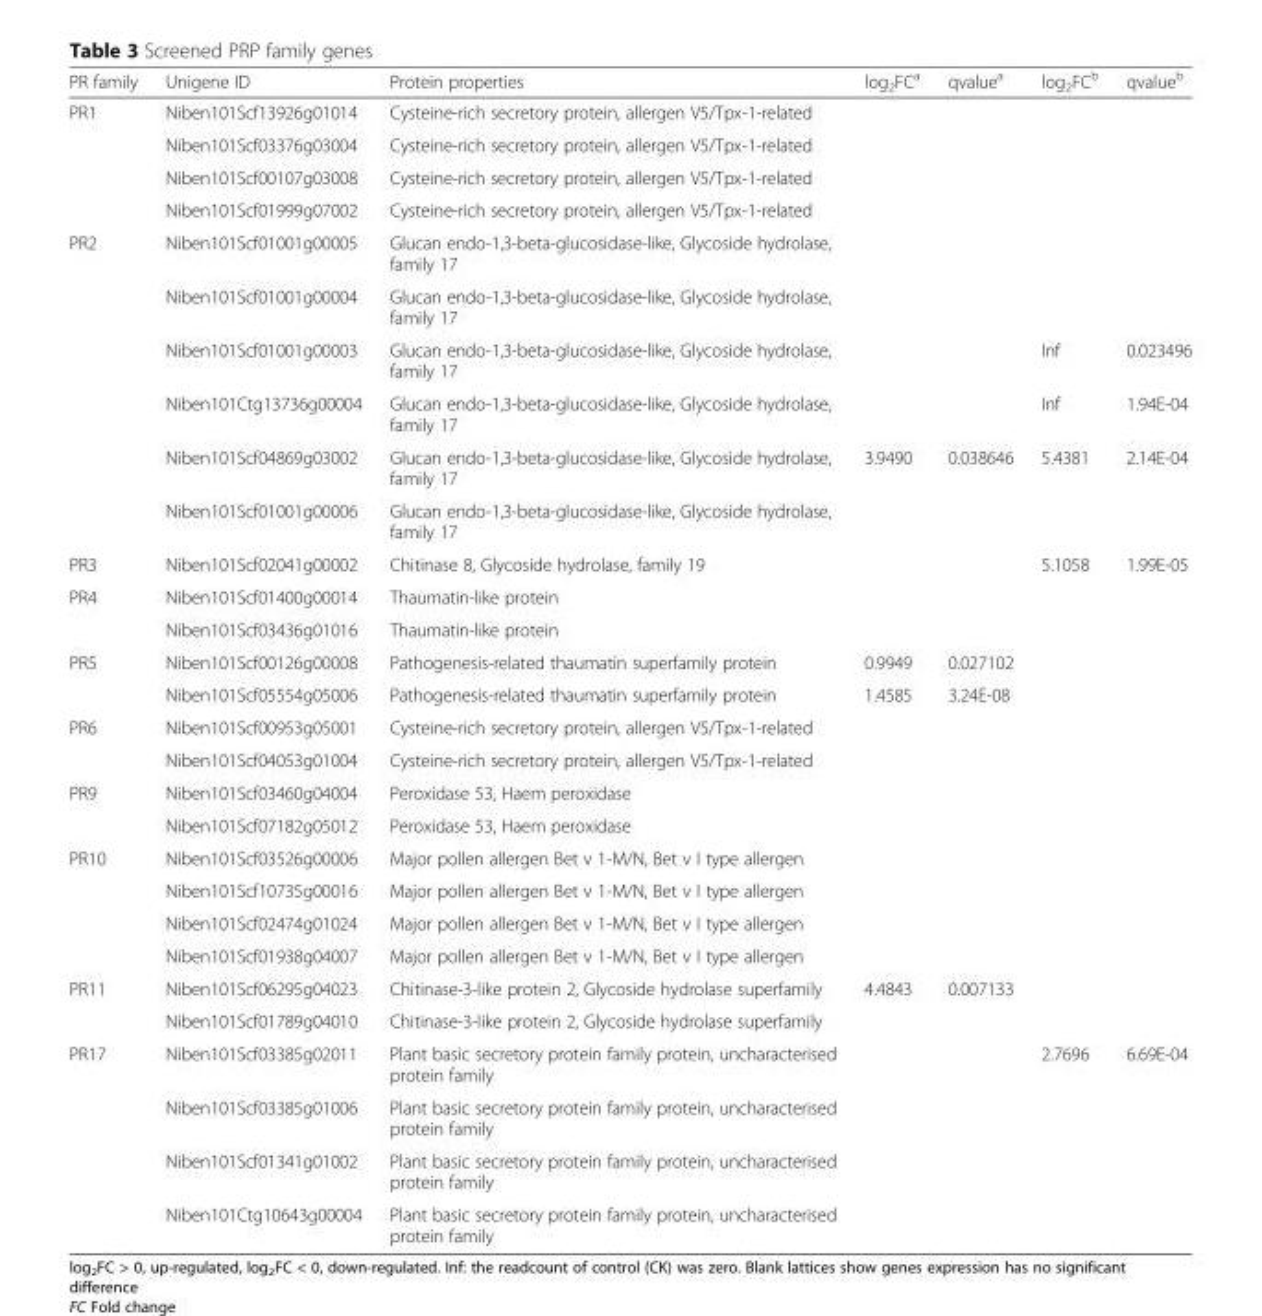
<table><thead><tr><td>PR family</td><td>Unigene ID</td><td>Protein properties</td><td>log<sub>2</sub>FC<sup>a</sup></td><td>qvalue<sup>a</sup></td><td>log<sub>2</sub>FC<sup>b</sup></td><td>qvalue<sup>b</sup></td></tr></thead><tbody><tr><td rowspan="4">PR1</td><td>Niben101Scf13926g01014</td><td>Cysteine-rich secretory protein, allergen V5/Tpx-1-related</td><td></td><td></td><td></td><td></td></tr><tr><td>Niben101Scf03376g03004</td><td>Cysteine-rich secretory protein, allergen V5/Tpx-1-related</td><td></td><td></td><td></td><td></td></tr><tr><td>Niben101Scf00107g03008</td><td>Cysteine-rich secretory protein, allergen V5/Tpx-1-related</td><td></td><td></td><td></td><td></td></tr><tr><td>Niben101Scf01999g07002</td><td>Cysteine-rich secretory protein, allergen V5/Tpx-1-related</td><td></td><td></td><td></td><td></td></tr><tr><td rowspan="6">PR2</td><td>Niben101Scf01001g00005</td><td>Glucan endo-1,3-beta-glucosidase-like, Glycoside hydrolase, family 17</td><td></td><td></td><td></td><td></td></tr><tr><td>Niben101Scf01001g00004</td><td>Glucan endo-1,3-beta-glucosidase-like, Glycoside hydrolase, family 17</td><td></td><td></td><td></td><td></td></tr><tr><td>Niben101Scf01001g00003</td><td>Glucan endo-1,3-beta-glucosidase-like, Glycoside hydrolase, family 17</td><td></td><td></td><td>Inf</td><td>0.023496</td></tr><tr><td>Niben101Ctg13736g00004</td><td>Glucan endo-1,3-beta-glucosidase-like, Glycoside hydrolase, family 17</td><td></td><td></td><td>Inf</td><td>1.94E-04</td></tr><tr><td>Niben101Scf04869g03002</td><td>Glucan endo-1,3-beta-glucosidase-like, Glycoside hydrolase, family 17</td><td>3.9490</td><td>0.038646</td><td>5.4381</td><td>2.14E-04</td></tr><tr><td>Niben101Scf01001g00006</td><td>Glucan endo-1,3-beta-glucosidase-like, Glycoside hydrolase, family 17</td><td></td><td></td><td></td><td></td></tr><tr><td>PR3</td><td>Niben101Scf02041g00002</td><td>Chitinase 8, Glycoside hydrolase, family 19</td><td></td><td></td><td>5.1058</td><td>1.99E-05</td></tr><tr><td rowspan="2">PR4</td><td>Niben101Scf01400g00014</td><td>Thaumatin-like protein</td><td></td><td></td><td></td><td></td></tr><tr><td>Niben101Scf03436g01016</td><td>Thaumatin-like protein</td><td></td><td></td><td></td><td></td></tr><tr><td rowspan="2">PR5</td><td>Niben101Scf00126g00008</td><td>Pathogenesis-related thaumatin superfamily protein</td><td>0.9949</td><td>0.027102</td><td></td><td></td></tr><tr><td>Niben101Scf05554g05006</td><td>Pathogenesis-related thaumatin superfamily protein</td><td>1.4585</td><td>3.24E-08</td><td></td><td></td></tr><tr><td rowspan="2">PR6</td><td>Niben101Scf00953g05001</td><td>Cysteine-rich secretory protein, allergen V5/Tpx-1-related</td><td></td><td></td><td></td><td></td></tr><tr><td>Niben101Scf04053g01004</td><td>Cysteine-rich secretory protein, allergen V5/Tpx-1-related</td><td></td><td></td><td></td><td></td></tr><tr><td rowspan="2">PR9</td><td>Niben101Scf03460g04004</td><td>Peroxidase 53, Haem peroxidase</td><td></td><td></td><td></td><td></td></tr><tr><td>Niben101Scf07182g05012</td><td>Peroxidase 53, Haem peroxidase</td><td></td><td></td><td></td><td></td></tr><tr><td rowspan="4">PR10</td><td>Niben101Scf03526g00006</td><td>Major pollen allergen Bet v 1-M/N, Bet v I type allergen</td><td></td><td></td><td></td><td></td></tr><tr><td>Niben101Scf10735g00016</td><td>Major pollen allergen Bet v 1-M/N, Bet v I type allergen</td><td></td><td></td><td></td><td></td></tr><tr><td>Niben101Scf02474g01024</td><td>Major pollen allergen Bet v 1-M/N, Bet v I type allergen</td><td></td><td></td><td></td><td></td></tr><tr><td>Niben101Scf01938g04007</td><td>Major pollen allergen Bet v 1-M/N, Bet v I type allergen</td><td></td><td></td><td></td><td></td></tr><tr><td rowspan="2">PR11</td><td>Niben101Scf06295g04023</td><td>Chitinase-3-like protein 2, Glycoside hydrolase superfamily</td><td>4.4843</td><td>0.007133</td><td></td><td></td></tr><tr><td>Niben101Scf01789g04010</td><td>Chitinase-3-like protein 2, Glycoside hydrolase superfamily</td><td></td><td></td><td></td><td></td></tr><tr><td rowspan="4">PR17</td><td>Niben101Scf03385g02011</td><td>Plant basic secretory protein family protein, uncharacterised protein family</td><td></td><td></td><td>2.7696</td><td>6.69E-04</td></tr><tr><td>Niben101Scf03385g01006</td><td>Plant basic secretory protein family protein, uncharacterised protein family</td><td></td><td></td><td></td><td></td></tr><tr><td>Niben101Scf01341g01002</td><td>Plant basic secretory protein family protein, uncharacterised protein family</td><td></td><td></td><td></td><td></td></tr><tr><td>Niben101Ctg10643g00004</td><td>Plant basic secretory protein family protein, uncharacterised protein family</td><td></td><td></td><td></td><td></td></tr></tbody></table>